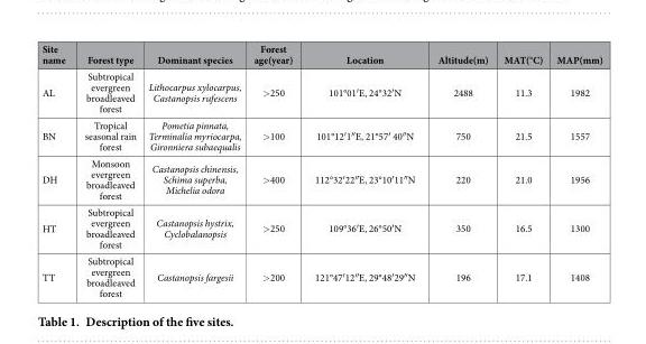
<table><thead><tr><td>Site name</td><td>Forest type</td><td>Dominant species</td><td>Forest age(year)</td><td>Location</td><td>Altitude(m)</td><td>MAT(°C)</td><td>MAP(mm)</td></tr></thead><tbody><tr><td>AL</td><td>Subtropical evergreen broadleaved forest</td><td>Lithocarpus xylocarpus, Castanopsis rufescens</td><td>&gt; 250</td><td>101°01′E, 24°32′N</td><td>2488</td><td>11.3</td><td>1982</td></tr><tr><td>BN</td><td>Tropical seasonal rain forest</td><td>Pometia pinnata, Terminalia myriocarpa, Gironniera subaequalis</td><td>&gt; 100</td><td>101°12′1″E, 21°57′ 40″N</td><td>750</td><td>21.5</td><td>1557</td></tr><tr><td>DH</td><td>Monsoon evergreen broadleaved forest</td><td>Castanopsis chinensis, Schima superba, Michelia odora</td><td>&gt; 400</td><td>112°32′22″E, 23°10′11″N</td><td>220</td><td>21.0</td><td>1956</td></tr><tr><td>HT</td><td>Subtropical evergreen broadleaved forest</td><td>Castanopsis hystrix, Cyclobalanopsis</td><td>&gt; 250</td><td>109°36′E, 26°50′N</td><td>350</td><td>16.5</td><td>1300</td></tr><tr><td>TT</td><td>Subtropical evergreen broadleaved forest</td><td>Castanopsis fargesii</td><td>&gt; 200</td><td>121°47′12″E, 29°48′29″N</td><td>196</td><td>17.1</td><td>1408</td></tr></tbody></table>